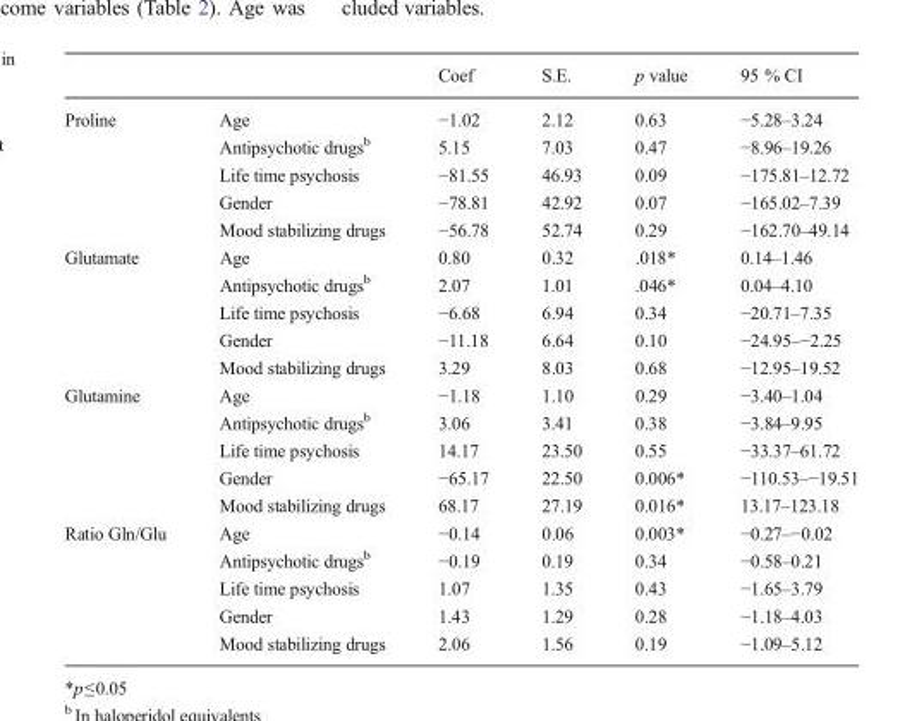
<table><thead><tr><td></td><td></td><td>Coef</td><td>S.E.</td><td>p value</td><td>95 % CI</td></tr></thead><tbody><tr><td rowspan="5">Proline</td><td>Age</td><td>−1.02</td><td>2.12</td><td>0.63</td><td>−5.28–3.24</td></tr><tr><td>Antipsychotic drugs<sup>b</sup></td><td>5.15</td><td>7.03</td><td>0.47</td><td>−8.96–19.26</td></tr><tr><td>Life time psychosis</td><td>−81.55</td><td>46.93</td><td>0.09</td><td>−175.81–12.72</td></tr><tr><td>Gender</td><td>−78.81</td><td>42.92</td><td>0.07</td><td>−165.02–7.39</td></tr><tr><td>Mood stabilizing drugs</td><td>−56.78</td><td>52.74</td><td>0.29</td><td>−162.70–49.14</td></tr><tr><td rowspan="5">Glutamate</td><td>Age</td><td>0.80</td><td>0.32</td><td>.018*</td><td>0.14–1.46</td></tr><tr><td>Antipsychotic drugs<sup>b</sup></td><td>2.07</td><td>1.01</td><td>.046*</td><td>0.04–4.10</td></tr><tr><td>Life time psychosis</td><td>−6.68</td><td>6.94</td><td>0.34</td><td>−20.71–7.35</td></tr><tr><td>Gender</td><td>−11.18</td><td>6.64</td><td>0.10</td><td>−24.95–−2.25</td></tr><tr><td>Mood stabilizing drugs</td><td>3.29</td><td>8.03</td><td>0.68</td><td>−12.95–19.52</td></tr><tr><td rowspan="5">Glutamine</td><td>Age</td><td>−1.18</td><td>1.10</td><td>0.29</td><td>−3.40–1.04</td></tr><tr><td>Antipsychotic drugs<sup>b</sup></td><td>3.06</td><td>3.41</td><td>0.38</td><td>−3.84–9.95</td></tr><tr><td>Life time psychosis</td><td>14.17</td><td>23.50</td><td>0.55</td><td>−33.37–61.72</td></tr><tr><td>Gender</td><td>−65.17</td><td>22.50</td><td>0.006*</td><td>−110.53–−19.51</td></tr><tr><td>Mood stabilizing drugs</td><td>68.17</td><td>27.19</td><td>0.016*</td><td>13.17–123.18</td></tr><tr><td rowspan="5">Ratio Gln/Glu</td><td>Age</td><td>−0.14</td><td>0.06</td><td>0.003*</td><td>−0.27–−0.02</td></tr><tr><td>Antipsychotic drugs<sup>b</sup></td><td>−0.19</td><td>0.19</td><td>0.34</td><td>−0.58–0.21</td></tr><tr><td>Life time psychosis</td><td>1.07</td><td>1.35</td><td>0.43</td><td>−1.65–3.79</td></tr><tr><td>Gender</td><td>1.43</td><td>1.29</td><td>0.28</td><td>−1.18–4.03</td></tr><tr><td>Mood stabilizing drugs</td><td>2.06</td><td>1.56</td><td>0.19</td><td>−1.09–5.12</td></tr></tbody></table>